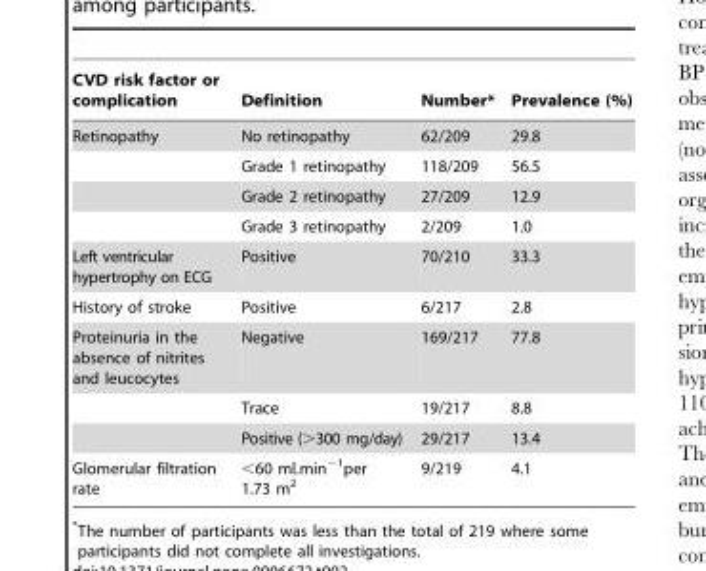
<table><thead><tr><td>CVD risk factor or complication</td><td>Definition</td><td>Number*</td><td>Prevalence (%)</td></tr></thead><tbody><tr><td rowspan="4">Retinopathy</td><td>No retinopathy</td><td>62/209</td><td>29.8</td></tr><tr><td>Grade 1 retinopathy</td><td>118/209</td><td>56.5</td></tr><tr><td>Grade 2 retinopathy</td><td>27/209</td><td>12.9</td></tr><tr><td>Grade 3 retinopathy</td><td>2/209</td><td>1.0</td></tr><tr><td>Left ventricular hypertrophy on ECG</td><td>Positive</td><td>70/210</td><td>33.3</td></tr><tr><td>History of stroke</td><td>Positive</td><td>6/217</td><td>2.8</td></tr><tr><td rowspan="3">Proteinuria in the absence of nitrites and leucocytes</td><td>Negative</td><td>169/217</td><td>77.8</td></tr><tr><td>Trace</td><td>19/217</td><td>8.8</td></tr><tr><td>Positive (&gt;300 mg/day)</td><td>29/217</td><td>13.4</td></tr><tr><td>Glomerular filtration rate</td><td>&lt;60 ml.min<sup>−1</sup>per 1.73 m<sup>2</sup></td><td>9/219</td><td>4.1</td></tr></tbody></table>